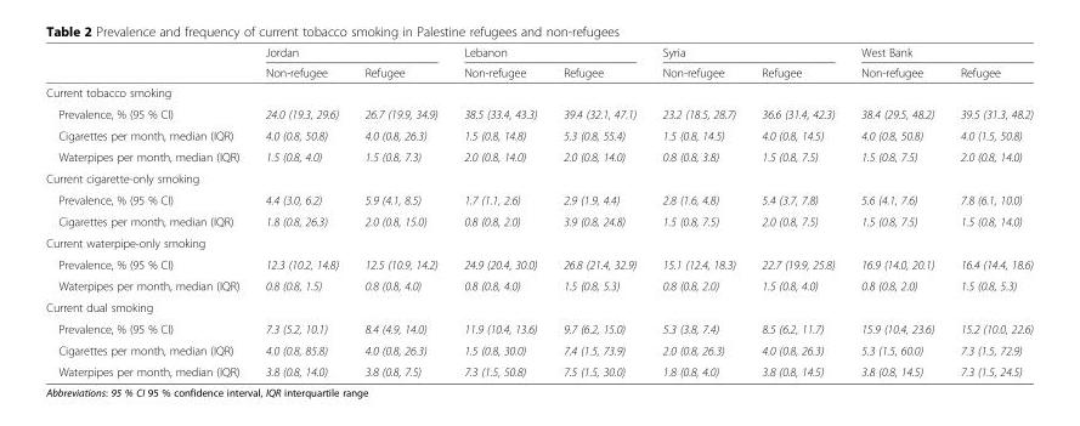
<table><thead><tr><td rowspan="2"></td><td colspan="2">Jordan</td><td colspan="2">Lebanon</td><td colspan="2">Syria</td><td colspan="2">West Bank</td></tr><tr><td>Non-refugee</td><td>Refugee</td><td>Non-refugee</td><td>Refugee</td><td>Non-refugee</td><td>Refugee</td><td>Non-refugee</td><td>Refugee</td></tr></thead><tbody><tr><td colspan="9">Current tobacco smoking</td></tr><tr><td>Prevalence, % (95 % CI)</td><td>24.0 (19.3, 29.6)</td><td>26.7 (19.9, 34.9)</td><td>38.5 (33.4, 43.3)</td><td>39.4 (32.1, 47.1)</td><td>23.2 (18.5, 28.7)</td><td>36.6 (31.4, 42.3)</td><td>38.4 (29.5, 48.2)</td><td>39.5 (31.3, 48.2)</td></tr><tr><td>Cigarettes per month, median (IQR)</td><td>4.0 (0.8, 50.8)</td><td>4.0 (0.8, 26.3)</td><td>1.5 (0.8, 14.8)</td><td>5.3 (0.8, 55.4)</td><td>1.5 (0.8, 14.5)</td><td>4.0 (0.8, 14.5)</td><td>4.0 (0.8, 50.8)</td><td>4.0 (1.5, 50.8)</td></tr><tr><td>Waterpipes per month, median (IQR)</td><td>1.5 (0.8, 4.0)</td><td>1.5 (0.8, 7.3)</td><td>2.0 (0.8, 14.0)</td><td>2.0 (0.8, 14.0)</td><td>0.8 (0.8, 3.8)</td><td>1.5 (0.8, 7.5)</td><td>1.5 (0.8, 7.5)</td><td>2.0 (0.8, 14.0)</td></tr><tr><td colspan="9">Current cigarette-only smoking</td></tr><tr><td>Prevalence, % (95 % CI)</td><td>4.4 (3.0, 6.2)</td><td>5.9 (4.1, 8.5)</td><td>1.7 (1.1, 2.6)</td><td>2.9 (1.9, 4.4)</td><td>2.8 (1.6, 4.8)</td><td>5.4 (3.7, 7.8)</td><td>5.6 (4.1, 7.6)</td><td>7.8 (6.1, 10.0)</td></tr><tr><td>Cigarettes per month, median (IQR)</td><td>1.8 (0.8, 26.3)</td><td>2.0 (0.8, 15.0)</td><td>0.8 (0.8, 2.0)</td><td>3.9 (0.8, 24.8)</td><td>1.5 (0.8, 7.5)</td><td>2.0 (0.8, 7.5)</td><td>1.5 (0.8, 7.5)</td><td>1.5 (0.8, 14.0)</td></tr><tr><td colspan="9">Current waterpipe-only smoking</td></tr><tr><td>Prevalence, % (95 % CI)</td><td>12.3 (10.2, 14.8)</td><td>12.5 (10.9, 14.2)</td><td>24.9 (20.4, 30.0)</td><td>26.8 (21.4, 32.9)</td><td>15.1 (12.4, 18.3)</td><td>22.7 (19.9, 25.8)</td><td>16.9 (14.0, 20.1)</td><td>16.4 (14.4, 18.6)</td></tr><tr><td>Waterpipes per month, median (IQR)</td><td>0.8 (0.8, 1.5)</td><td>0.8 (0.8, 4.0)</td><td>0.8 (0.8, 4.0)</td><td>1.5 (0.8, 5.3)</td><td>0.8 (0.8, 2.0)</td><td>1.5 (0.8, 4.0)</td><td>0.8 (0.8, 2.0)</td><td>1.5 (0.8, 5.3)</td></tr><tr><td colspan="9">Current dual smoking</td></tr><tr><td>Prevalence, % (95 % CI)</td><td>7.3 (5.2, 10.1)</td><td>8.4 (4.9, 14.0)</td><td>11.9 (10.4, 13.6)</td><td>9.7 (6.2, 15.0)</td><td>5.3 (3.8, 7.4)</td><td>8.5 (6.2, 11.7)</td><td>15.9 (10.4, 23.6)</td><td>15.2 (10.0, 22.6)</td></tr><tr><td>Cigarettes per month, median (IQR)</td><td>4.0 (0.8, 85.8)</td><td>4.0 (0.8, 26.3)</td><td>1.5 (0.8, 30.0)</td><td>7.4 (1.5, 73.9)</td><td>2.0 (0.8, 26.3)</td><td>4.0 (0.8, 26.3)</td><td>5.3 (1.5, 60.0)</td><td>7.3 (1.5, 72.9)</td></tr><tr><td>Waterpipes per month, median (IQR)</td><td>3.8 (0.8, 14.0)</td><td>3.8 (0.8, 7.5)</td><td>7.3 (1.5, 50.8)</td><td>7.5 (1.5, 30.0)</td><td>1.8 (0.8, 4.0)</td><td>3.8 (0.8, 14.5)</td><td>3.8 (0.8, 14.5)</td><td>7.3 (1.5, 24.5)</td></tr></tbody></table>